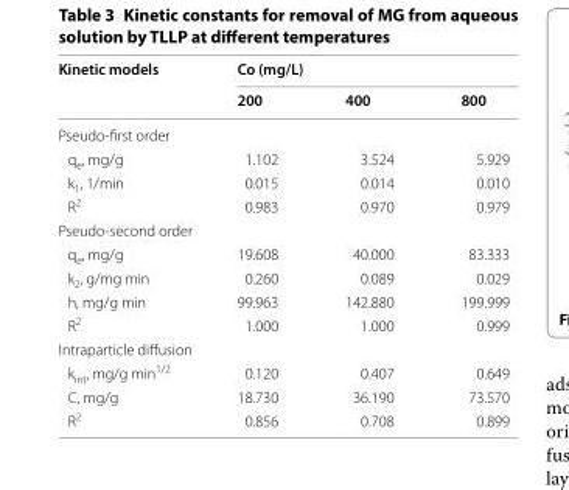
<table><thead><tr><td rowspan="2">Kinetic models</td><td colspan="3">Co (mg/L)</td></tr><tr><td>200</td><td>400</td><td>800</td></tr></thead><tbody><tr><td colspan="4">Pseudo-first order</td></tr><tr><td>q<sub>e</sub>, mg/g</td><td>1.102</td><td>3.524</td><td>5.929</td></tr><tr><td>k<sub>1</sub>, 1/min</td><td>0.015</td><td>0.014</td><td>0.010</td></tr><tr><td>R<sup>2</sup></td><td>0.983</td><td>0.970</td><td>0.979</td></tr><tr><td colspan="4">Pseudo-second order</td></tr><tr><td>q<sub>e</sub>, mg/g</td><td>19.608</td><td>40.000</td><td>83.333</td></tr><tr><td>k<sub>2</sub>, g/mg min</td><td>0.260</td><td>0.089</td><td>0.029</td></tr><tr><td>h, mg/g min</td><td>99.963</td><td>142.880</td><td>199.999</td></tr><tr><td>R<sup>2</sup></td><td>1.000</td><td>1.000</td><td>0.999</td></tr><tr><td colspan="4">Intraparticle diffusion</td></tr><tr><td>k<sub>int</sub>, mg/g min<sup>1/2</sup></td><td>0.120</td><td>0.407</td><td>0.649</td></tr><tr><td>C, mg/g</td><td>18.730</td><td>36.190</td><td>73.570</td></tr><tr><td>R<sup>2</sup></td><td>0.856</td><td>0.708</td><td>0.899</td></tr></tbody></table>